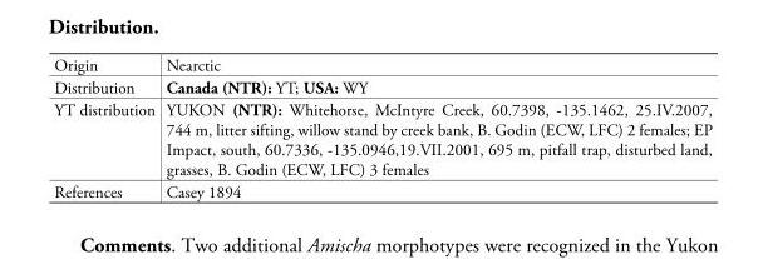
<table><tbody><tr><td>Origin</td><td>Nearctic</td></tr><tr><td>Distribution</td><td>Canada (NTR): YT; USA: WY</td></tr><tr><td>YT distribution</td><td>YUKON (NTR): Whitehorse, McIntyre Creek, 60.7398, -135.1462, 25.IV.2007, 744 m, litter sifting, willow stand by creek bank, B. Godin (ECW, LFC) 2 females; EP Impact, south, 60.7336, -135.0946,19.VII.2001, 695 m, pitfall trap, disturbed land, grasses, B. Godin (ECW, LFC) 3 females</td></tr><tr><td>References</td><td>Casey 1894</td></tr></tbody></table>